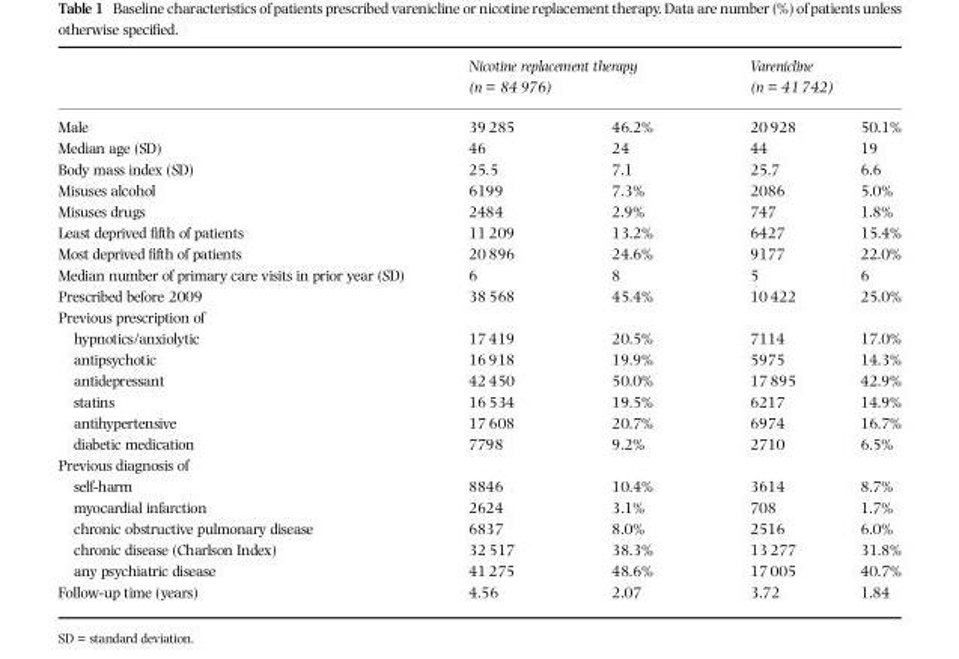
<table><thead><tr><td rowspan="2">Male</td><td colspan="2">Nicotine replacement therapy (n = 84 976)</td><td colspan="2">Varenicline (n = 41 742)</td></tr><tr><td>39 285</td><td>46.2%</td><td>20 928</td><td>50.1%</td></tr></thead><tbody><tr><td>Median age (SD)</td><td>46</td><td>24</td><td>44</td><td>19</td></tr><tr><td>Body mass index (SD)</td><td>25.5</td><td>7.1</td><td>25.7</td><td>6.6</td></tr><tr><td>Misuses alcohol</td><td>6199</td><td>7.3%</td><td>2086</td><td>5.0%</td></tr><tr><td>Misuses drugs</td><td>2484</td><td>2.9%</td><td>747</td><td>1.8%</td></tr><tr><td>Least deprived fifth of patients</td><td>11 209</td><td>13.2%</td><td>6427</td><td>15.4%</td></tr><tr><td>Most deprived fifth of patients</td><td>20 896</td><td>24.6%</td><td>9177</td><td>22.0%</td></tr><tr><td>Median number of primary care visits in prior year (SD)</td><td>6</td><td>8</td><td>5</td><td>6</td></tr><tr><td>Prescribed before 2009</td><td>38 568</td><td>45.4%</td><td>10 422</td><td>25.0%</td></tr><tr><td colspan="5">Previous prescription of</td></tr><tr><td>hypnotics/anxiolytic</td><td>17 419</td><td>20.5%</td><td>7114</td><td>17.0%</td></tr><tr><td>antipsychotic</td><td>16 918</td><td>19.9%</td><td>5975</td><td>14.3%</td></tr><tr><td>antidepressant</td><td>42 450</td><td>50.0%</td><td>17 895</td><td>42.9%</td></tr><tr><td>statins</td><td>16 534</td><td>19.5%</td><td>6217</td><td>14.9%</td></tr><tr><td>antihypertensive</td><td>17 608</td><td>20.7%</td><td>6974</td><td>16.7%</td></tr><tr><td>diabetic medication</td><td>7798</td><td>9.2%</td><td>2710</td><td>6.5%</td></tr><tr><td colspan="5">Previous diagnosis of</td></tr><tr><td>self-harm</td><td>8846</td><td>10.4%</td><td>3614</td><td>8.7%</td></tr><tr><td>myocardial infarction</td><td>2624</td><td>3.1%</td><td>708</td><td>1.7%</td></tr><tr><td>chronic obstructive pulmonary disease</td><td>6837</td><td>8.0%</td><td>2516</td><td>6.0%</td></tr><tr><td>chronic disease (Charlson Index)</td><td>32 517</td><td>38.3%</td><td>13 277</td><td>31.8%</td></tr><tr><td>any psychiatric disease</td><td>41 275</td><td>48.6%</td><td>17 005</td><td>40.7%</td></tr><tr><td>Follow-up time (years)</td><td>4.56</td><td>2.07</td><td>3.72</td><td>1.84</td></tr></tbody></table>